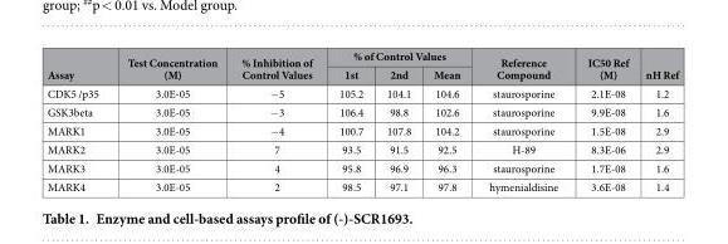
<table><thead><tr><td rowspan="2">Assay</td><td rowspan="2">Test Concentration (M)</td><td rowspan="2">% Inhibition of Control Values</td><td colspan="3">% of Control Values</td><td rowspan="2">Reference Compound</td><td rowspan="2">IC50 Ref (M)</td><td rowspan="2">nH Ref</td></tr><tr><td>1st</td><td>2nd</td><td>Mean</td></tr></thead><tbody><tr><td>CDK5 /p35</td><td>3.0E-05</td><td>− 5</td><td>105.2</td><td>104.1</td><td>104.6</td><td>staurosporine</td><td>2.1E-08</td><td>1.2</td></tr><tr><td>GSK3beta</td><td>3.0E-05</td><td>− 3</td><td>106.4</td><td>98.8</td><td>102.6</td><td>staurosporine</td><td>9.9E-08</td><td>1.6</td></tr><tr><td>MARK1</td><td>3.0E-05</td><td>− 4</td><td>100.7</td><td>107.8</td><td>104.2</td><td>staurosporine</td><td>1.5E-08</td><td>2.9</td></tr><tr><td>MARK2</td><td>3.0E-05</td><td>7</td><td>93.5</td><td>91.5</td><td>92.5</td><td>H-89</td><td>8.3E-06</td><td>2.9</td></tr><tr><td>MARK3</td><td>3.0E-05</td><td>4</td><td>95.8</td><td>96.9</td><td>96.3</td><td>staurosporine</td><td>1.7E-08</td><td>1.6</td></tr><tr><td>MARK4</td><td>3.0E-05</td><td>2</td><td>98.5</td><td>97.1</td><td>97.8</td><td>hymenialdisine</td><td>3.6E-08</td><td>1.4</td></tr></tbody></table>